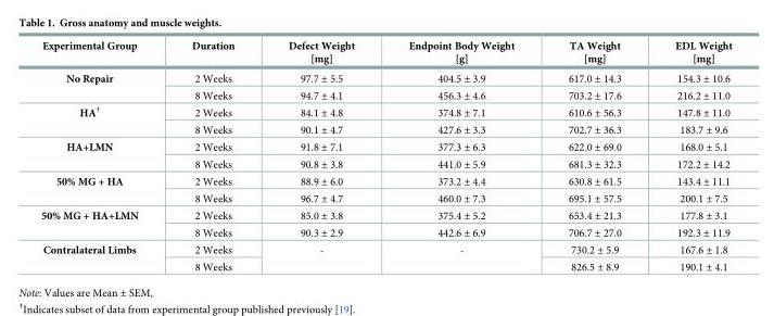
<table><thead><tr><td>Experimental Group</td><td>Duration</td><td>Defect Weight [mg]</td><td>Endpoint Body Weight [g]</td><td>TA Weight [mg]</td><td>EDL Weight [mg]</td></tr></thead><tbody><tr><td rowspan="2">No Repair</td><td>2 Weeks</td><td>97.7 ± 5.5</td><td>404.5 ± 3.9</td><td>617.0 ± 14.3</td><td>154.3 ± 10.6</td></tr><tr><td>8 Weeks</td><td>94.7 ± 4.1</td><td>456.3 ± 4.6</td><td>703.2 ± 17.6</td><td>216.2 ± 11.0</td></tr><tr><td rowspan="2">HA<sup>†</sup></td><td>2 Weeks</td><td>84.1 ± 4.8</td><td>374.8 ± 7.1</td><td>610.6 ± 56.3</td><td>147.8 ± 11.0</td></tr><tr><td>8 Weeks</td><td>90.1 ± 4.7</td><td>427.6 ± 3.3</td><td>702.7 ± 36.3</td><td>183.7 ± 9.6</td></tr><tr><td rowspan="2">HA+LMN</td><td>2 Weeks</td><td>91.8 ± 7.1</td><td>377.3 ± 6.3</td><td>622.0 ± 69.0</td><td>168.0 ± 5.1</td></tr><tr><td>8 Weeks</td><td>90.8 ± 3.8</td><td>441.0 ± 5.9</td><td>681.3 ± 32.3</td><td>172.2 ± 14.2</td></tr><tr><td rowspan="2">50% MG + HA</td><td>2 Weeks</td><td>88.9 ± 6.0</td><td>373.2 ± 4.4</td><td>630.8 ± 61.5</td><td>143.4 ± 11.1</td></tr><tr><td>8 Weeks</td><td>96.7 ± 4.7</td><td>460.0 ± 7.3</td><td>695.1 ± 57.5</td><td>200.1 ± 7.5</td></tr><tr><td rowspan="2">50% MG + HA+LMN</td><td>2 Weeks</td><td>85.0 ± 3.8</td><td>375.4 ± 5.2</td><td>653.4 ± 21.3</td><td>177.8 ± 3.1</td></tr><tr><td>8 Weeks</td><td>90.3 ± 2.9</td><td>442.6 ± 6.9</td><td>706.7 ± 27.0</td><td>192.3 ± 11.9</td></tr><tr><td rowspan="2">Contralateral Limbs</td><td>2 Weeks</td><td rowspan="2">-</td><td rowspan="2">-</td><td>730.2 ± 5.9</td><td>167.6 ± 1.8</td></tr><tr><td>8 Weeks</td><td>826.5 ± 8.9</td><td>190.1 ± 4.1</td></tr></tbody></table>